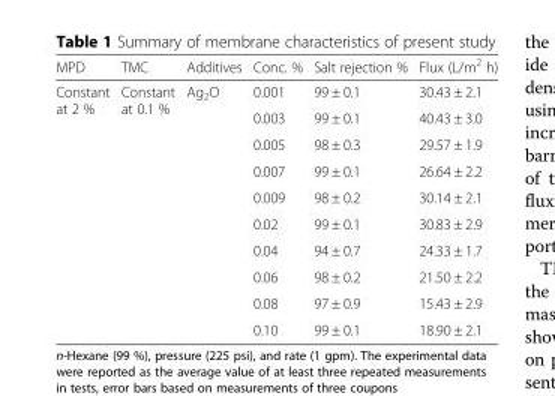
<table><thead><tr><td>MPD</td><td>TMC</td><td>Additives</td><td>Conc. %</td><td>Salt rejection %</td><td>Flux (L/m<sup>2</sup> h)</td></tr></thead><tbody><tr><td rowspan="10">Constant at 2 %</td><td rowspan="10">Constant at 0.1 %</td><td rowspan="10">Ag<sub>2</sub>O</td><td>0.001</td><td>99 ± 0.1</td><td>30.43 ± 2.1</td></tr><tr><td>0.003</td><td>99 ± 0.1</td><td>40.43 ± 3.0</td></tr><tr><td>0.005</td><td>98 ± 0.3</td><td>29.57 ± 1.9</td></tr><tr><td>0.007</td><td>99 ± 0.1</td><td>26.64 ± 2.2</td></tr><tr><td>0.009</td><td>98 ± 0.2</td><td>30.14 ± 2.1</td></tr><tr><td>0.02</td><td>99 ± 0.1</td><td>30.83 ± 2.9</td></tr><tr><td>0.04</td><td>94 ± 0.7</td><td>24.33 ± 1.7</td></tr><tr><td>0.06</td><td>98 ± 0.2</td><td>21.50 ± 2.2</td></tr><tr><td>0.08</td><td>97 ± 0.9</td><td>15.43 ± 2.9</td></tr><tr><td>0.10</td><td>99 ± 0.1</td><td>18.90 ± 2.1</td></tr></tbody></table>